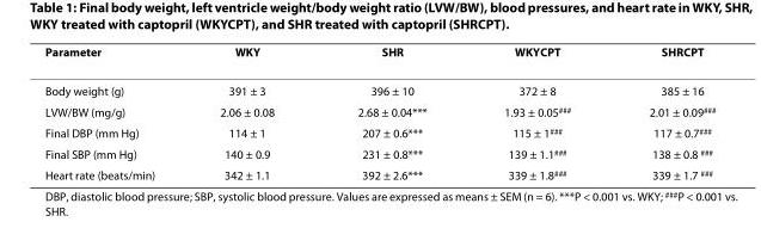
<table><thead><tr><td>Parameter</td><td>WKY</td><td>SHR</td><td>WKYCPT</td><td>SHRCPT</td></tr></thead><tbody><tr><td>Body weight (g)</td><td>391 ± 3</td><td>396 ± 10</td><td>372 ± 8</td><td>385 ± 16</td></tr><tr><td>LVW/BW (mg/g)</td><td>2.06 ± 0.08</td><td>2.68 ± 0.04***</td><td>1.93 ± 0.05<sup>###</sup></td><td>2.01 ± 0.09<sup>###</sup></td></tr><tr><td>Final DBP (mm Hg)</td><td>114 ± 1</td><td>207 ± 0.6***</td><td>115 ± 1<sup>###</sup></td><td>117 ± 0.7<sup>###</sup></td></tr><tr><td>Final SBP (mm Hg)</td><td>140 ± 0.9</td><td>231 ± 0.8***</td><td>139 ± 1.1<sup>###</sup></td><td>138 ± 0.8 <sup>###</sup></td></tr><tr><td>Heart rate (beats/min)</td><td>342 ± 1.1</td><td>392 ± 2.6***</td><td>339 ± 1.8<sup>###</sup></td><td>339 ± 1.7 <sup>###</sup></td></tr></tbody></table>